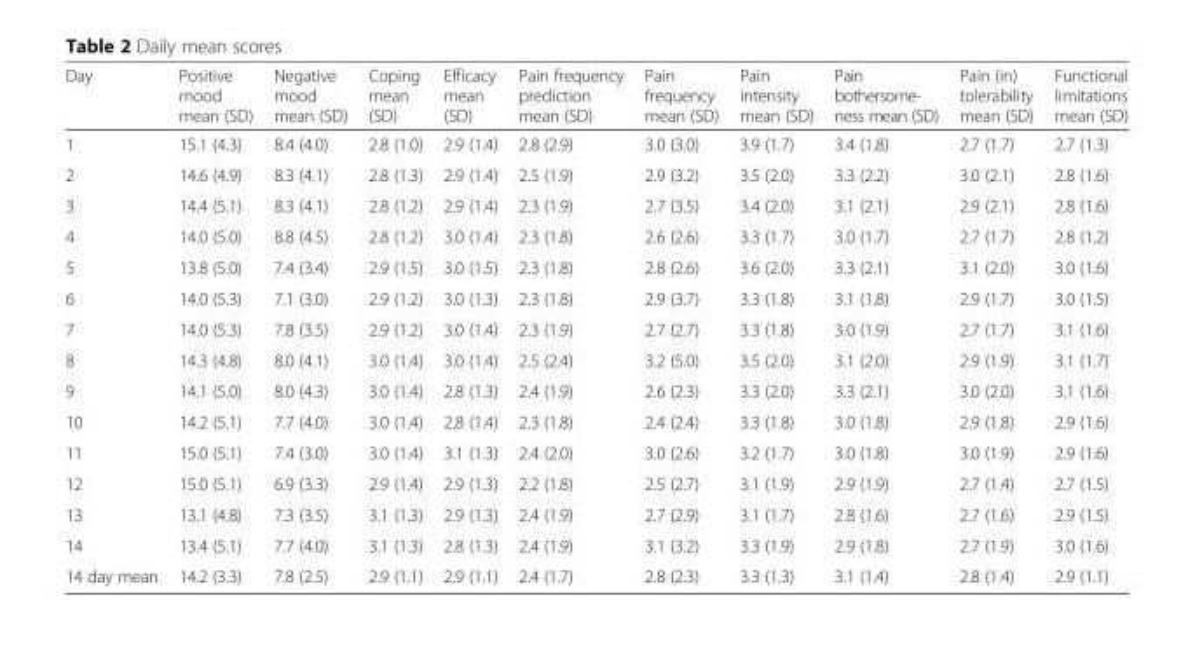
<table><thead><tr><td>Day</td><td>Positive mood mean (SD)</td><td>Negative mood mean (SD)</td><td>Coping mean (SD)</td><td>Efficacy mean (SD)</td><td>Pain frequency prediction mean (SD)</td><td>Pain frequency mean (SD)</td><td>Pain intensity mean (SD)</td><td>Pain bothersome- ness mean (SD)</td><td>Pain (in) tolerability mean (SD)</td><td>Functional limitations mean (SD)</td></tr></thead><tbody><tr><td>1</td><td>15.1 (4.3)</td><td>8.4 (4.0)</td><td>2.8 (1.0)</td><td>2.9 (1.4)</td><td>2.8 (2.9)</td><td>3.0 (3.0)</td><td>3.9 (1.7)</td><td>3.4 (1.8)</td><td>2.7 (1.7)</td><td>2.7 (1.3)</td></tr><tr><td>2</td><td>14.6 (4.9)</td><td>8.3 (4.1)</td><td>2.8 (1.3)</td><td>2.9 (1.4)</td><td>2.5 (1.9)</td><td>2.9 (3.2)</td><td>3.5 (2.0)</td><td>3.3 (2.2)</td><td>3.0 (2.1)</td><td>2.8 (1.6)</td></tr><tr><td>3</td><td>14.4 (5.1)</td><td>8.3 (4.1)</td><td>2.8 (1.2)</td><td>2.9 (1.4)</td><td>2.3 (1.9)</td><td>2.7 (3.5)</td><td>3.4 (2.0)</td><td>3.1 (2.1)</td><td>2.9 (2.1)</td><td>2.8 (1.6)</td></tr><tr><td>4</td><td>14.0 (5.0)</td><td>8.8 (4.5)</td><td>2.8 (1.2)</td><td>3.0 (1.4)</td><td>2.3 (1.8)</td><td>2.6 (2.6)</td><td>3.3 (1.7)</td><td>3.0 (1.7)</td><td>2.7 (1.7)</td><td>2.8 (1.2)</td></tr><tr><td>5</td><td>13.8 (5.0)</td><td>7.4 (3.4)</td><td>2.9 (1.5)</td><td>3.0 (1.5)</td><td>2.3 (1.8)</td><td>2.8 (2.6)</td><td>3.6 (2.0)</td><td>3.3 (2.1)</td><td>3.1 (2.0)</td><td>3.0 (1.6)</td></tr><tr><td>6</td><td>14.0 (5.3)</td><td>7.1 (3.0)</td><td>2.9 (1.2)</td><td>3.0 (1.3)</td><td>2.3 (1.8)</td><td>2.9 (3.7)</td><td>3.3 (1.8)</td><td>3.1 (1.8)</td><td>2.9 (1.7)</td><td>3.0 (1.5)</td></tr><tr><td>7</td><td>14.0 (5.3)</td><td>7.8 (3.5)</td><td>2.9 (1.2)</td><td>3.0 (1.4)</td><td>2.3 (1.9)</td><td>2.7 (2.7)</td><td>3.3 (1.8)</td><td>3.0 (1.9)</td><td>2.7 (1.7)</td><td>3.1 (1.6)</td></tr><tr><td>8</td><td>14.3 (4.8)</td><td>8.0 (4.1)</td><td>3.0 (1.4)</td><td>3.0 (1.4)</td><td>2.5 (2.4)</td><td>3.2 (5.0)</td><td>3.5 (2.0)</td><td>3.1 (2.0)</td><td>2.9 (1.9)</td><td>3.1 (1.7)</td></tr><tr><td>9</td><td>14.1 (5.0)</td><td>8.0 (4.3)</td><td>3.0 (1.4)</td><td>2.8 (1.3)</td><td>2.4 (1.9)</td><td>2.6 (2.3)</td><td>3.3 (2.0)</td><td>3.3 (2.1)</td><td>3.0 (2.0)</td><td>3.1 (1.6)</td></tr><tr><td>10</td><td>14.2 (5.1)</td><td>7.7 (4.0)</td><td>3.0 (1.4)</td><td>2.8 (1.4)</td><td>2.3 (1.8)</td><td>2.4 (2.4)</td><td>3.3 (1.8)</td><td>3.0 (1.8)</td><td>2.9 (1.8)</td><td>2.9 (1.6)</td></tr><tr><td>11</td><td>15.0 (5.1)</td><td>7.4 (3.0)</td><td>3.0 (1.4)</td><td>3.1 (1.3)</td><td>2.4 (2.0)</td><td>3.0 (2.6)</td><td>3.2 (1.7)</td><td>3.0 (1.8)</td><td>3.0 (1.9)</td><td>2.9 (1.6)</td></tr><tr><td>12</td><td>15.0 (5.1)</td><td>6.9 (3.3)</td><td>2.9 (1.4)</td><td>2.9 (1.3)</td><td>2.2 (1.8)</td><td>2.5 (2.7)</td><td>3.1 (1.9)</td><td>2.9 (1.9)</td><td>2.7 (1.4)</td><td>2.7 (1.5)</td></tr><tr><td>13</td><td>13.1 (4.8)</td><td>7.3 (3.5)</td><td>3.1 (1.3)</td><td>2.9 (1.3)</td><td>2.4 (1.9)</td><td>2.7 (2.9)</td><td>3.1 (1.7)</td><td>2.8 (1.6)</td><td>2.7 (1.6)</td><td>2.9 (1.5)</td></tr><tr><td>14</td><td>13.4 (5.1)</td><td>7.7 (4.0)</td><td>3.1 (1.3)</td><td>2.8 (1.3)</td><td>2.4 (1.9)</td><td>3.1 (3.2)</td><td>3.3 (1.9)</td><td>2.9 (1.8)</td><td>2.7 (1.9)</td><td>3.0 (1.6)</td></tr><tr><td>14 day mean</td><td>14.2 (3.3)</td><td>7.8 (2.5)</td><td>2.9 (1.1)</td><td>2.9 (1.1)</td><td>2.4 (1.7)</td><td>2.8 (2.3)</td><td>3.3 (1.3)</td><td>3.1 (1.4)</td><td>2.8 (1.4)</td><td>2.9 (1.1)</td></tr></tbody></table>